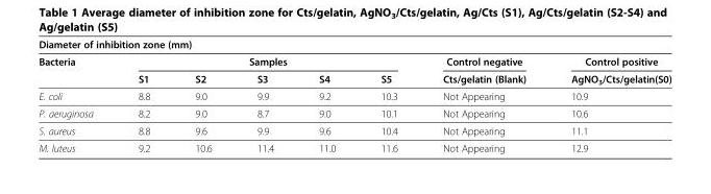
<table><thead><tr><td colspan="8">Diameter of inhibition zone (mm)</td></tr><tr><td rowspan="2">Bacteria</td><td colspan="4">Samples</td><td rowspan="2">S5</td><td rowspan="2">Control negative Cts/gelatin (Blank)</td><td rowspan="2">Control positive AgNO<sub>3</sub>/Cts/gelatin(S0)</td></tr><tr><td>S1</td><td>S2</td><td>S3</td><td>S4</td></tr></thead><tbody><tr><td>E. coli</td><td>8.8</td><td>9.0</td><td>9.9</td><td>9.2</td><td>10.3</td><td>Not Appearing</td><td>10.9</td></tr><tr><td>P. aeruginosa</td><td>8.2</td><td>9.0</td><td>8.7</td><td>9.0</td><td>10.1</td><td>Not Appearing</td><td>10.6</td></tr><tr><td>S. aureus</td><td>8.8</td><td>9.6</td><td>9.9</td><td>9.6</td><td>10.4</td><td>Not Appearing</td><td>11.1</td></tr><tr><td>M. luteus</td><td>9.2</td><td>10.6</td><td>11.4</td><td>11.0</td><td>11.6</td><td>Not Appearing</td><td>12.9</td></tr></tbody></table>